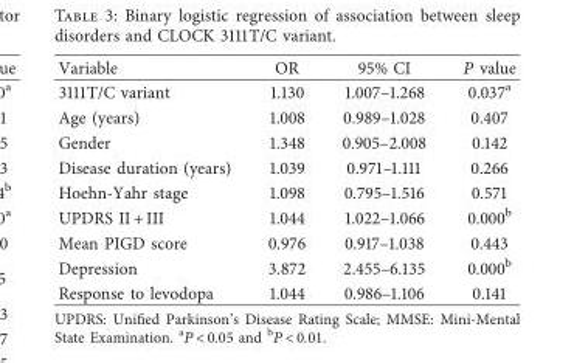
<table><thead><tr><td>Variable</td><td>OR</td><td>95% CI</td><td>P value</td></tr></thead><tbody><tr><td>3111T/C variant</td><td>1.130</td><td>1.007–1.268</td><td>0.037<sup>a</sup></td></tr><tr><td>Age (years)</td><td>1.008</td><td>0.989–1.028</td><td>0.407</td></tr><tr><td>Gender</td><td>1.348</td><td>0.905–2.008</td><td>0.142</td></tr><tr><td>Disease duration (years)</td><td>1.039</td><td>0.971–1.111</td><td>0.266</td></tr><tr><td>Hoehn-Yahr stage</td><td>1.098</td><td>0.795–1.516</td><td>0.571</td></tr><tr><td>UPDRS II + III</td><td>1.044</td><td>1.022–1.066</td><td>0.000<sup>b</sup></td></tr><tr><td>Mean PIGD score</td><td>0.976</td><td>0.917–1.038</td><td>0.443</td></tr><tr><td>Depression</td><td>3.872</td><td>2.455–6.135</td><td>0.000<sup>b</sup></td></tr><tr><td>Response to levodopa</td><td>1.044</td><td>0.986–1.106</td><td>0.141</td></tr></tbody></table>